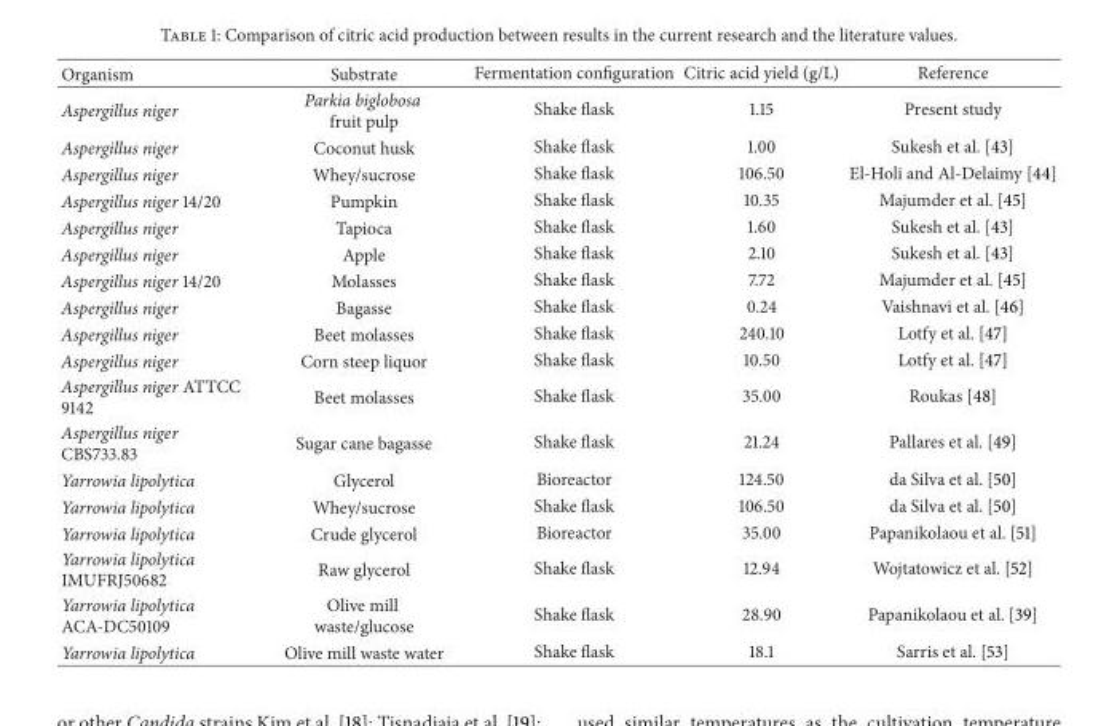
<table><thead><tr><td>Organism</td><td>Substrate</td><td>Fermentation configuration</td><td>Citric acid yield (g/L)</td><td>Reference</td></tr></thead><tbody><tr><td>Aspergillus niger</td><td>Parkia biglobosa fruit pulp</td><td>Shake flask</td><td>1.15</td><td>Present study</td></tr><tr><td>Aspergillus niger</td><td>Coconut husk</td><td>Shake flask</td><td>1.00</td><td>Sukesh et al. [43]</td></tr><tr><td>Aspergillus niger</td><td>Whey/sucrose</td><td>Shake flask</td><td>106.50</td><td>El-Holi and Al-Delaimy [44]</td></tr><tr><td>Aspergillus niger 14/20</td><td>Pumpkin</td><td>Shake flask</td><td>10.35</td><td>Majumder et al. [45]</td></tr><tr><td>Aspergillus niger</td><td>Tapioca</td><td>Shake flask</td><td>1.60</td><td>Sukesh et al. [43]</td></tr><tr><td>Aspergillus niger</td><td>Apple</td><td>Shake flask</td><td>2.10</td><td>Sukesh et al. [43]</td></tr><tr><td>Aspergillus niger 14/20</td><td>Molasses</td><td>Shake flask</td><td>7.72</td><td>Majumder et al. [45]</td></tr><tr><td>Aspergillus niger</td><td>Bagasse</td><td>Shake flask</td><td>0.24</td><td>Vaishnavi et al. [46]</td></tr><tr><td>Aspergillus niger</td><td>Beet molasses</td><td>Shake flask</td><td>240.10</td><td>Lotfy et al. [47]</td></tr><tr><td>Aspergillus niger</td><td>Corn steep liquor</td><td>Shake flask</td><td>10.50</td><td>Lotfy et al. [47]</td></tr><tr><td>Aspergillus niger ATTCC 9142</td><td>Beet molasses</td><td>Shake flask</td><td>35.00</td><td>Roukas [48]</td></tr><tr><td>Aspergillus niger CBS733.83</td><td>Sugar cane bagasse</td><td>Shake flask</td><td>21.24</td><td>Pallares et al. [49]</td></tr><tr><td>Yarrowia lipolytica</td><td>Glycerol</td><td>Bioreactor</td><td>124.50</td><td>da Silva et al. [50]</td></tr><tr><td>Yarrowia lipolytica</td><td>Whey/sucrose</td><td>Shake flask</td><td>106.50</td><td>da Silva et al. [50]</td></tr><tr><td>Yarrowia lipolytica</td><td>Crude glycerol</td><td>Bioreactor</td><td>35.00</td><td>Papanikolaou et al. [51]</td></tr><tr><td>Yarrowia lipolytica IMUFRJ50682</td><td>Raw glycerol</td><td>Shake flask</td><td>12.94</td><td>Wojtatowicz et al. [52]</td></tr><tr><td>Yarrowia lipolytica ACA-DC50109</td><td>Olive mill waste/glucose</td><td>Shake flask</td><td>28.90</td><td>Papanikolaou et al. [39]</td></tr><tr><td>Yarrowia lipolytica</td><td>Olive mill waste water</td><td>Shake flask</td><td>18.1</td><td>Sarris et al. [53]</td></tr></tbody></table>